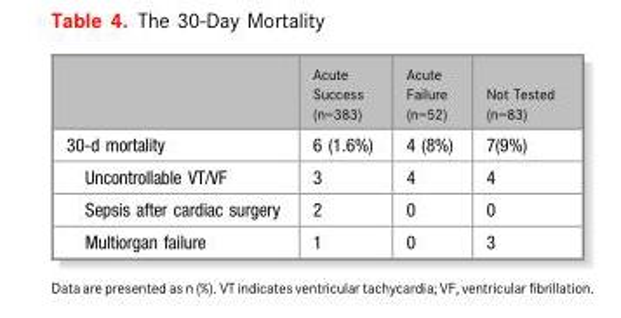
<table><thead><tr><td></td><td>Acute Success (n=383)</td><td>Acute Failure (n=52)</td><td>Not Tested (n=83)</td></tr></thead><tbody><tr><td>30-d mortality</td><td>6 (1.6%)</td><td>4 (8%)</td><td>7(9%)</td></tr><tr><td>Uncontrollable VT/VF</td><td>3</td><td>4</td><td>4</td></tr><tr><td>Sepsis after cardiac surgery</td><td>2</td><td>0</td><td>0</td></tr><tr><td>Multiorgan failure</td><td>1</td><td>0</td><td>3</td></tr></tbody></table>